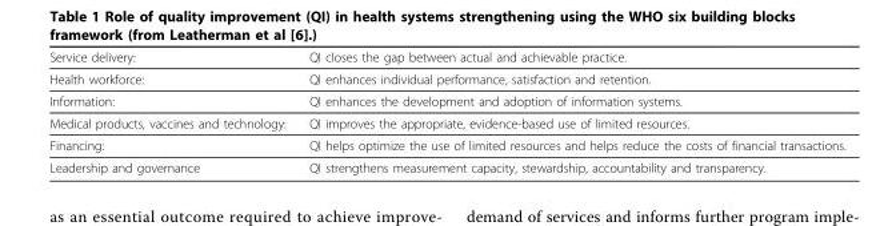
<table><thead><tr><td>Service delivery:</td><td>QI closes the gap between actual and achievable practice.</td></tr></thead><tbody><tr><td>Health workforce:</td><td>QI enhances individual performance, satisfaction and retention.</td></tr><tr><td>Information:</td><td>QI enhances the development and adoption of information systems.</td></tr><tr><td>Medical products, vaccines and technology:</td><td>QI improves the appropriate, evidence-based use of limited resources.</td></tr><tr><td>Financing:</td><td>QI helps optimize the use of limited resources and helps reduce the costs of financial transactions.</td></tr><tr><td>Leadership and governance</td><td>QI strengthens measurement capacity, stewardship, accountability and transparency.</td></tr></tbody></table>